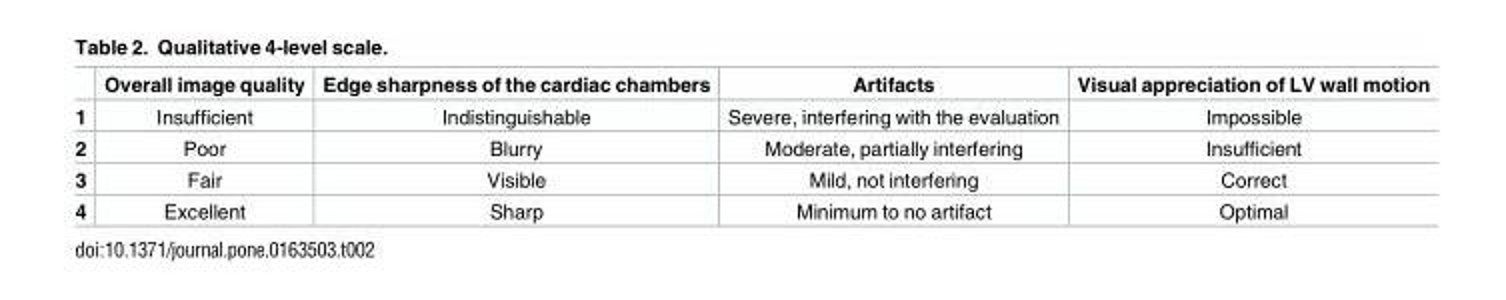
<table><thead><tr><td></td><td>Overall image quality</td><td>Edge sharpness of the cardiac chambers</td><td>Artifacts</td><td>Visual appreciation of LV wall motion</td></tr></thead><tbody><tr><td>1</td><td>Insufficient</td><td>Indistinguishable</td><td>Severe, interfering with the evaluation</td><td>Impossible</td></tr><tr><td>2</td><td>Poor</td><td>Blurry</td><td>Moderate, partially interfering</td><td>Insufficient</td></tr><tr><td>3</td><td>Fair</td><td>Visible</td><td>Mild, not interfering</td><td>Correct</td></tr><tr><td>4</td><td>Excellent</td><td>Sharp</td><td>Minimum to no artifact</td><td>Optimal</td></tr></tbody></table>